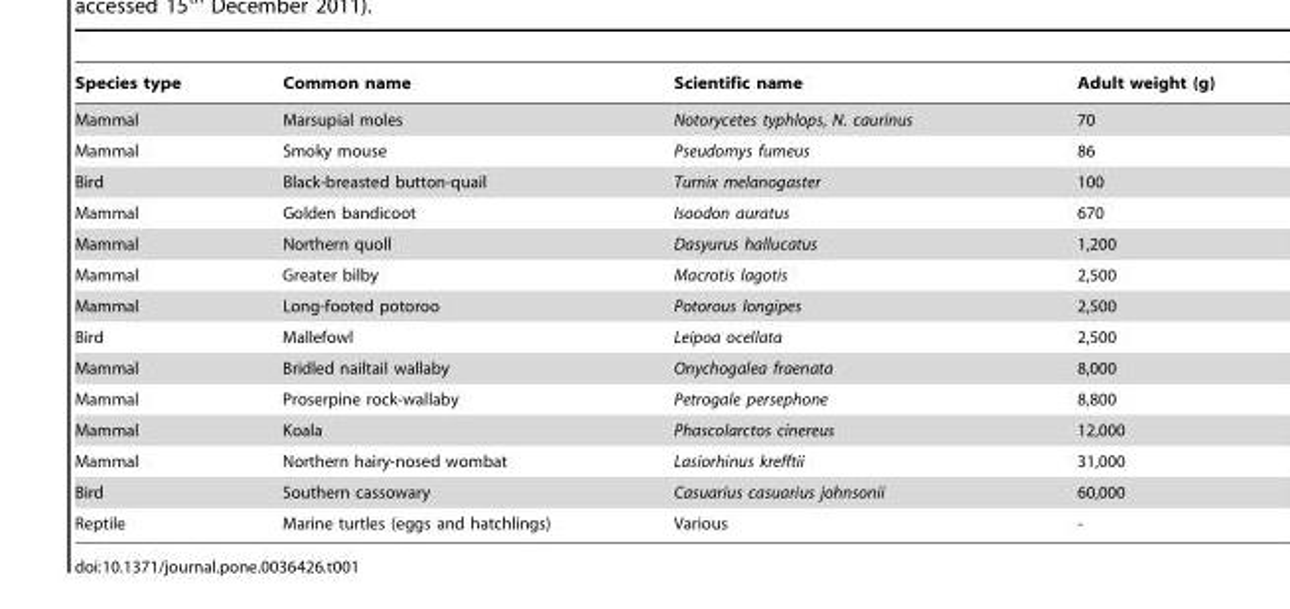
<table><thead><tr><td>Species type</td><td>Common name</td><td>Scientific name</td><td>Adult weight (g)</td></tr></thead><tbody><tr><td>Mammal</td><td>Marsupial moles</td><td>Notorycetes typhlops, N. caurinus</td><td>70</td></tr><tr><td>Mammal</td><td>Smoky mouse</td><td>Pseudomys fumeus</td><td>86</td></tr><tr><td>Bird</td><td>Black-breasted button-quail</td><td>Turnix melanogaster</td><td>100</td></tr><tr><td>Mammal</td><td>Golden bandicoot</td><td>Isoodon auratus</td><td>670</td></tr><tr><td>Mammal</td><td>Northern quoll</td><td>Dasyurus hallucatus</td><td>1,200</td></tr><tr><td>Mammal</td><td>Greater bilby</td><td>Macrotis lagotis</td><td>2,500</td></tr><tr><td>Mammal</td><td>Long-footed potoroo</td><td>Potorous longipes</td><td>2,500</td></tr><tr><td>Bird</td><td>Mallefowl</td><td>Leipoa ocellata</td><td>2,500</td></tr><tr><td>Mammal</td><td>Bridled nailtail wallaby</td><td>Onychogalea fraenata</td><td>8,000</td></tr><tr><td>Mammal</td><td>Proserpine rock-wallaby</td><td>Petrogale persephone</td><td>8,800</td></tr><tr><td>Mammal</td><td>Koala</td><td>Phascolarctos cinereus</td><td>12,000</td></tr><tr><td>Mammal</td><td>Northern hairy-nosed wombat</td><td>Lasiorhinus krefftii</td><td>31,000</td></tr><tr><td>Bird</td><td>Southern cassowary</td><td>Casuarius casuarius johnsonii</td><td>60,000</td></tr><tr><td>Reptile</td><td>Marine turtles (eggs and hatchlings)</td><td>Various</td><td>-</td></tr></tbody></table>